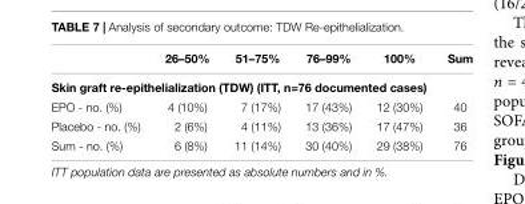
<table><thead><tr><td></td><td>26–50%</td><td>51–75%</td><td>76–99%</td><td>100%</td><td>Sum</td></tr></thead><tbody><tr><td colspan="6">Skin graft re-epithelialization (TDW) (ITT, n=76 documented cases)</td></tr><tr><td>EPO - no. (%)</td><td>4 (10%)</td><td>7 (17%)</td><td>17 (43%)</td><td>12 (30%)</td><td>40</td></tr><tr><td>Placebo - no. (%)</td><td>2 (6%)</td><td>4 (11%)</td><td>13 (36%)</td><td>17 (47%)</td><td>36</td></tr><tr><td>Sum - no. (%)</td><td>6 (8%)</td><td>11 (14%)</td><td>30 (40%)</td><td>29 (38%)</td><td>76</td></tr></tbody></table>